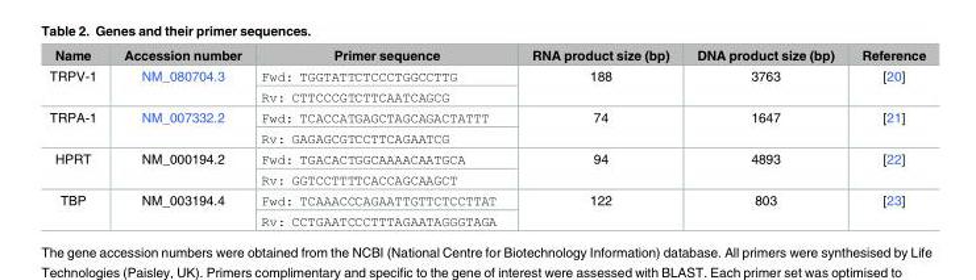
<table><thead><tr><td>Name</td><td>Accession number</td><td>Primer sequence</td><td>RNA product size (bp)</td><td>DNA product size (bp)</td><td>Reference</td></tr></thead><tbody><tr><td rowspan="2">TRPV-1</td><td rowspan="2">NM_080704.3</td><td>Fwd: TGGTATTCTCCCTGGCCTTG</td><td rowspan="2">188</td><td rowspan="2">3763</td><td rowspan="2">[20]</td></tr><tr><td>Rv: CTTCCCGTCTTCAATCAGCG</td></tr><tr><td rowspan="2">TRPA-1</td><td rowspan="2">NM_007332.2</td><td>Fwd: TCACCATGAGCTAGCAGACTATTT</td><td rowspan="2">74</td><td rowspan="2">1647</td><td rowspan="2">[21]</td></tr><tr><td>Rv: GAGAGCGTCCTTCAGAATCG</td></tr><tr><td rowspan="2">HPRT</td><td rowspan="2">NM_000194.2</td><td>Fwd: TGACACTGGCAAAACAATGCA</td><td rowspan="2">94</td><td rowspan="2">4893</td><td rowspan="2">[22]</td></tr><tr><td>Rv: GGTCCTTTTCACCAGCAAGCT</td></tr><tr><td rowspan="2">TBP</td><td rowspan="2">NM_003194.4</td><td>Fwd: TCAAACCCAGAATTGTTCTCCTTAT</td><td rowspan="2">122</td><td rowspan="2">803</td><td rowspan="2">[23]</td></tr><tr><td>Rv: CCTGAATCCCTTTAGAATAGGGTAGA</td></tr></tbody></table>